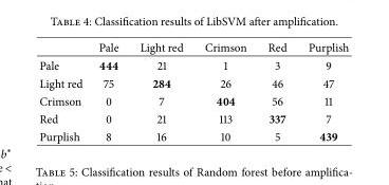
<table><thead><tr><td></td><td>Pale</td><td>Light red</td><td>Crimson</td><td>Red</td><td>Purplish</td></tr></thead><tbody><tr><td>Pale</td><td>444</td><td>21</td><td>1</td><td>3</td><td>9</td></tr><tr><td>Light red</td><td>75</td><td>284</td><td>26</td><td>46</td><td>47</td></tr><tr><td>Crimson</td><td>0</td><td>7</td><td>404</td><td>56</td><td>11</td></tr><tr><td>Red</td><td>0</td><td>21</td><td>113</td><td>337</td><td>7</td></tr><tr><td>Purplish</td><td>8</td><td>16</td><td>10</td><td>5</td><td>439</td></tr></tbody></table>